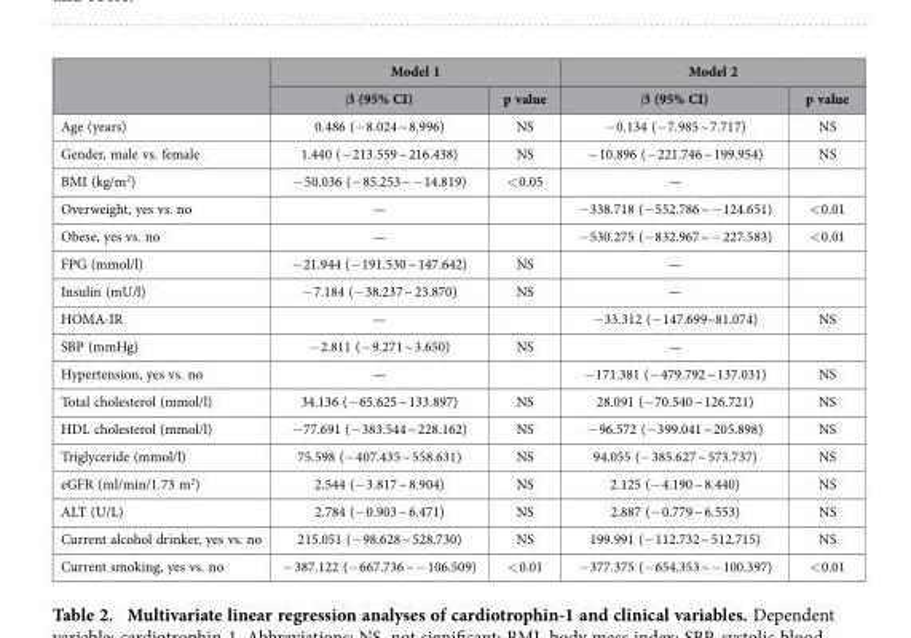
<table><thead><tr><td rowspan="2"></td><td colspan="2">Model 1</td><td colspan="2">Model 2</td></tr><tr><td>β (95% CI)</td><td>p value</td><td>β (95% CI)</td><td>p value</td></tr></thead><tbody><tr><td>Age (years)</td><td>0.486 (− 8.024 ~ 8.996)</td><td>NS</td><td>− 0.134 (− 7.985 ~ 7.717)</td><td>NS</td></tr><tr><td>Gender, male vs. female</td><td>1.440 (− 213.559 ~ 216.438)</td><td>NS</td><td>− 10.896 (− 221.746 ~ 199.954)</td><td>NS</td></tr><tr><td>BMI (kg/m<sup>2</sup>)</td><td>− 50.036 (− 85.253 ~ − 14.819)</td><td>&lt; 0.05</td><td>—</td><td></td></tr><tr><td>Overweight, yes vs. no</td><td>—</td><td></td><td>− 338.718 (− 552.786 ~ − 124.651)</td><td>&lt; 0.01</td></tr><tr><td>Obese, yes vs. no</td><td>—</td><td></td><td>− 530.275 (− 832.967 ~ − 227.583)</td><td>&lt; 0.01</td></tr><tr><td>FPG (mmol/l)</td><td>− 21.944 (− 191.530 ~ 147.642)</td><td>NS</td><td>—</td><td></td></tr><tr><td>Insulin (mU/l)</td><td>− 7.184 (− 38.237 ~ 23.870)</td><td>NS</td><td>—</td><td></td></tr><tr><td>HOMA-IR</td><td>—</td><td></td><td>− 33.312 (− 147.699~81.074)</td><td>NS</td></tr><tr><td>SBP (mmHg)</td><td>− 2.811 (− 9.271 ~ 3.650)</td><td>NS</td><td>—</td><td></td></tr><tr><td>Hypertension, yes vs. no</td><td>—</td><td></td><td>− 171.381 (− 479.792 ~ 137.031)</td><td>NS</td></tr><tr><td>Total cholesterol (mmol/l)</td><td>34.136 (− 65.625 ~ 133.897)</td><td>NS</td><td>28.091 (− 70.540 ~ 126.721)</td><td>NS</td></tr><tr><td>HDL cholesterol (mmol/l)</td><td>− 77.691 (− 383.544 ~ 228.162)</td><td>NS</td><td>− 96.572 (− 399.041 ~ 205.898)</td><td>NS</td></tr><tr><td>Triglyceride (mmol/l)</td><td>75.598 (− 407.435 ~ 558.631)</td><td>NS</td><td>94.055 (− 385.627 ~ 573.737)</td><td>NS</td></tr><tr><td>eGFR (ml/min/1.73 m<sup>2</sup>)</td><td>2.544 (− 3.817 ~ 8.904)</td><td>NS</td><td>2.125 (− 4.190 ~ 8.440)</td><td>NS</td></tr><tr><td>ALT (U/L)</td><td>2.784 (− 0.903 ~ 6.471)</td><td>NS</td><td>2.887 (− 0.779 ~ 6.553)</td><td>NS</td></tr><tr><td>Current alcohol drinker, yes vs. no</td><td>215.051 (− 98.628 ~ 528.730)</td><td>NS</td><td>199.991 (− 112.732 ~ 512.715)</td><td>NS</td></tr><tr><td>Current smoking, yes vs. no</td><td>− 387.122 (− 667.736 ~ − 106.509)</td><td>&lt; 0.01</td><td>− 377.375 (− 654.353 ~ − 100.397)</td><td>&lt; 0.01</td></tr></tbody></table>